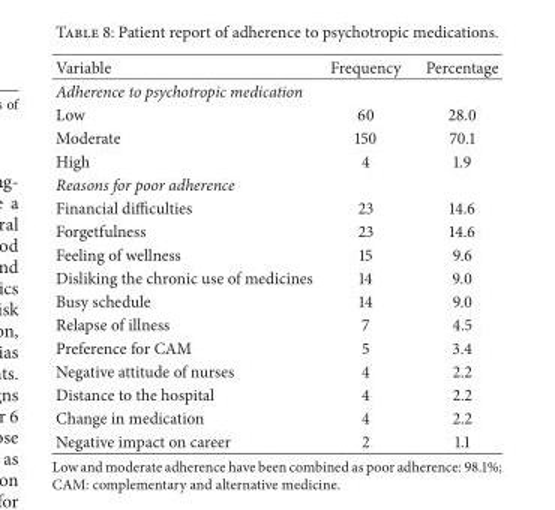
<table><thead><tr><td>Variable</td><td>Frequency</td><td>Percentage</td></tr></thead><tbody><tr><td colspan="3">Adherence to psychotropic medication</td></tr><tr><td>Low</td><td>60</td><td>28.0</td></tr><tr><td>Moderate</td><td>150</td><td>70.1</td></tr><tr><td>High</td><td>4</td><td>1.9</td></tr><tr><td colspan="3">Reasons for poor adherence</td></tr><tr><td>Financial difficulties</td><td>23</td><td>14.6</td></tr><tr><td>Forgetfulness</td><td>23</td><td>14.6</td></tr><tr><td>Feeling of wellness</td><td>15</td><td>9.6</td></tr><tr><td>Disliking the chronic use of medicines</td><td>14</td><td>9.0</td></tr><tr><td>Busy schedule</td><td>14</td><td>9.0</td></tr><tr><td>Relapse of illness</td><td>7</td><td>4.5</td></tr><tr><td>Preference for CAM</td><td>5</td><td>3.4</td></tr><tr><td>Negative attitude of nurses</td><td>4</td><td>2.2</td></tr><tr><td>Distance to the hospital</td><td>4</td><td>2.2</td></tr><tr><td>Change in medication</td><td>4</td><td>2.2</td></tr><tr><td>Negative impact on career</td><td>2</td><td>1.1</td></tr></tbody></table>